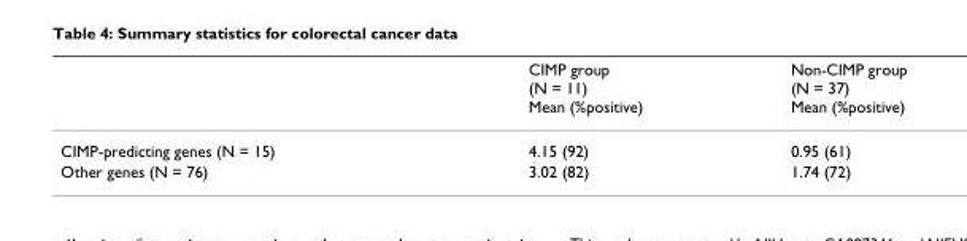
<table><thead><tr><td></td><td>CIMP group (N = 11) Mean (%positive)</td><td>Non-CIMP group (N = 37) Mean (%positive)</td></tr></thead><tbody><tr><td>CIMP-predicting genes (N = 15)</td><td>4.15 (92)</td><td>0.95 (61)</td></tr><tr><td>Other genes (N = 76)</td><td>3.02 (82)</td><td>1.74 (72)</td></tr></tbody></table>